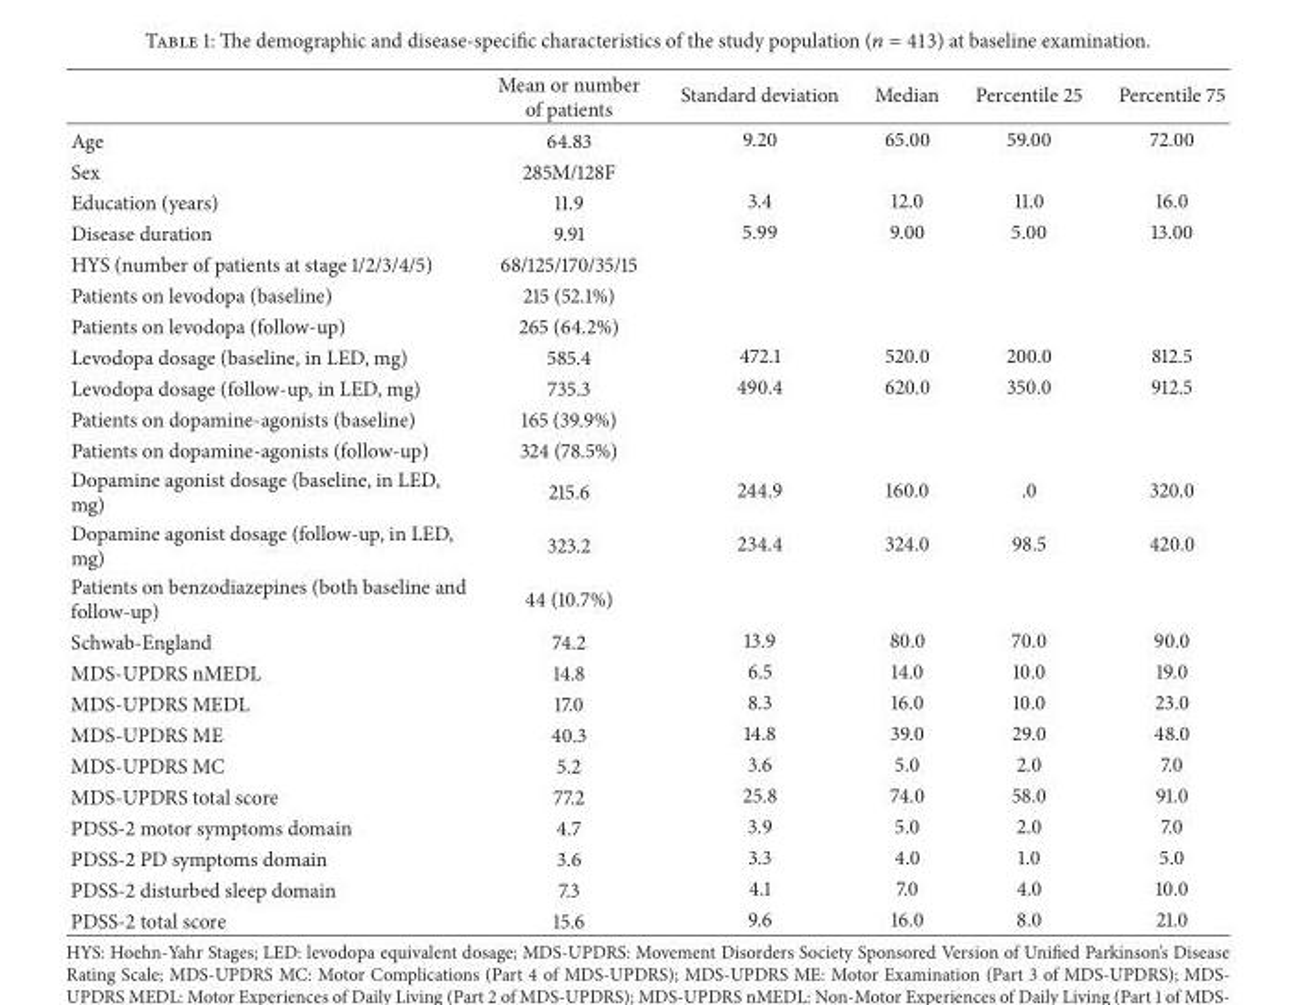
<table><thead><tr><td></td><td>Mean or number of patients</td><td>Standard deviation</td><td>Median</td><td>Percentile 25</td><td>Percentile 75</td></tr></thead><tbody><tr><td>Age</td><td>64.83</td><td>9.20</td><td>65.00</td><td>59.00</td><td>72.00</td></tr><tr><td>Sex</td><td>285M/128F</td><td></td><td></td><td></td><td></td></tr><tr><td>Education (years)</td><td>11.9</td><td>3.4</td><td>12.0</td><td>11.0</td><td>16.0</td></tr><tr><td>Disease duration</td><td>9.91</td><td>5.99</td><td>9.00</td><td>5.00</td><td>13.00</td></tr><tr><td>HYS (number of patients at stage 1/2/3/4/5)</td><td>68/125/170/35/15</td><td></td><td></td><td></td><td></td></tr><tr><td>Patients on levodopa (baseline)</td><td>215 (52.1%)</td><td></td><td></td><td></td><td></td></tr><tr><td>Patients on levodopa (follow-up)</td><td>265 (64.2%)</td><td></td><td></td><td></td><td></td></tr><tr><td>Levodopa dosage (baseline, in LED, mg)</td><td>585.4</td><td>472.1</td><td>520.0</td><td>200.0</td><td>812.5</td></tr><tr><td>Levodopa dosage (follow-up, in LED, mg)</td><td>735.3</td><td>490.4</td><td>620.0</td><td>350.0</td><td>912.5</td></tr><tr><td>Patients on dopamine-agonists (baseline)</td><td>165 (39.9%)</td><td></td><td></td><td></td><td></td></tr><tr><td>Patients on dopamine-agonists (follow-up)</td><td>324 (78.5%)</td><td></td><td></td><td></td><td></td></tr><tr><td>Dopamine agonist dosage (baseline, in LED, mg)</td><td>215.6</td><td>244.9</td><td>160.0</td><td>.0</td><td>320.0</td></tr><tr><td>Dopamine agonist dosage (follow-up, in LED, mg)</td><td>323.2</td><td>234.4</td><td>324.0</td><td>98.5</td><td>420.0</td></tr><tr><td>Patients on benzodiazepines (both baseline and follow-up)</td><td>44 (10.7%)</td><td></td><td></td><td></td><td></td></tr><tr><td>Schwab-England</td><td>74.2</td><td>13.9</td><td>80.0</td><td>70.0</td><td>90.0</td></tr><tr><td>MDS-UPDRS nMEDL</td><td>14.8</td><td>6.5</td><td>14.0</td><td>10.0</td><td>19.0</td></tr><tr><td>MDS-UPDRS MEDL</td><td>17.0</td><td>8.3</td><td>16.0</td><td>10.0</td><td>23.0</td></tr><tr><td>MDS-UPDRS ME</td><td>40.3</td><td>14.8</td><td>39.0</td><td>29.0</td><td>48.0</td></tr><tr><td>MDS-UPDRS MC</td><td>5.2</td><td>3.6</td><td>5.0</td><td>2.0</td><td>7.0</td></tr><tr><td>MDS-UPDRS total score</td><td>77.2</td><td>25.8</td><td>74.0</td><td>58.0</td><td>91.0</td></tr><tr><td>PDSS-2 motor symptoms domain</td><td>4.7</td><td>3.9</td><td>5.0</td><td>2.0</td><td>7.0</td></tr><tr><td>PDSS-2 PD symptoms domain</td><td>3.6</td><td>3.3</td><td>4.0</td><td>1.0</td><td>5.0</td></tr><tr><td>PDSS-2 disturbed sleep domain</td><td>7.3</td><td>4.1</td><td>7.0</td><td>4.0</td><td>10.0</td></tr><tr><td>PDSS-2 total score</td><td>15.6</td><td>9.6</td><td>16.0</td><td>8.0</td><td>21.0</td></tr></tbody></table>